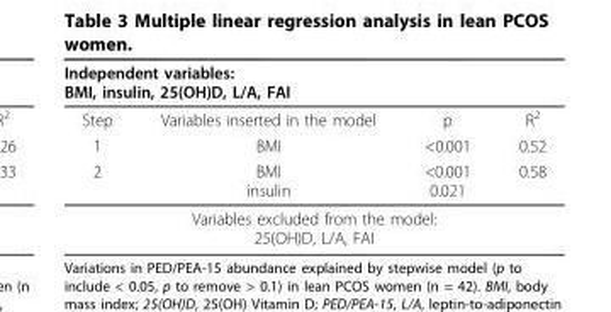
<table><thead><tr><td colspan="4">Independent variables: BMI, insulin, 25(OH)D, L/A, FAI</td></tr><tr><td>Step</td><td>Variables inserted in the model</td><td>p</td><td>R<sup>2</sup></td></tr></thead><tbody><tr><td>1</td><td>BMI</td><td>&lt;0.001</td><td>0.52</td></tr><tr><td>2</td><td>BMI insulin</td><td>&lt;0.001 0.021</td><td>0.58</td></tr><tr><td colspan="4">Variables excluded from the model: 25(OH)D, L/A, FAI</td></tr></tbody></table>